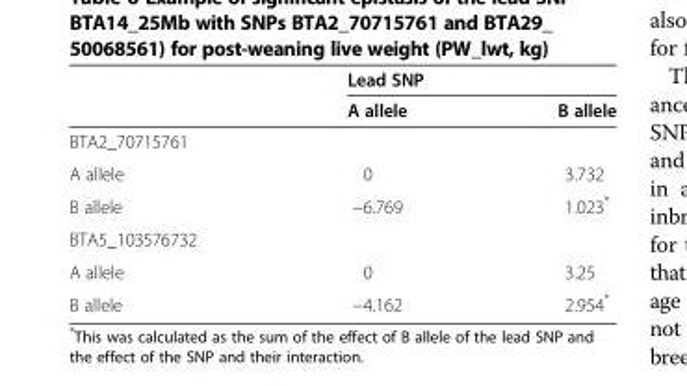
<table><thead><tr><td rowspan="2"></td><td colspan="2">Lead SNP</td></tr><tr><td>A allele</td><td>B allele</td></tr></thead><tbody><tr><td colspan="3">BTA2_70715761</td></tr><tr><td>A allele</td><td>0</td><td>3.732</td></tr><tr><td>B allele</td><td>−6.769</td><td>1.023*</td></tr><tr><td colspan="3">BTA5_103576732</td></tr><tr><td>A allele</td><td>0</td><td>3.25</td></tr><tr><td>B allele</td><td>−4.162</td><td>2.954*</td></tr></tbody></table>